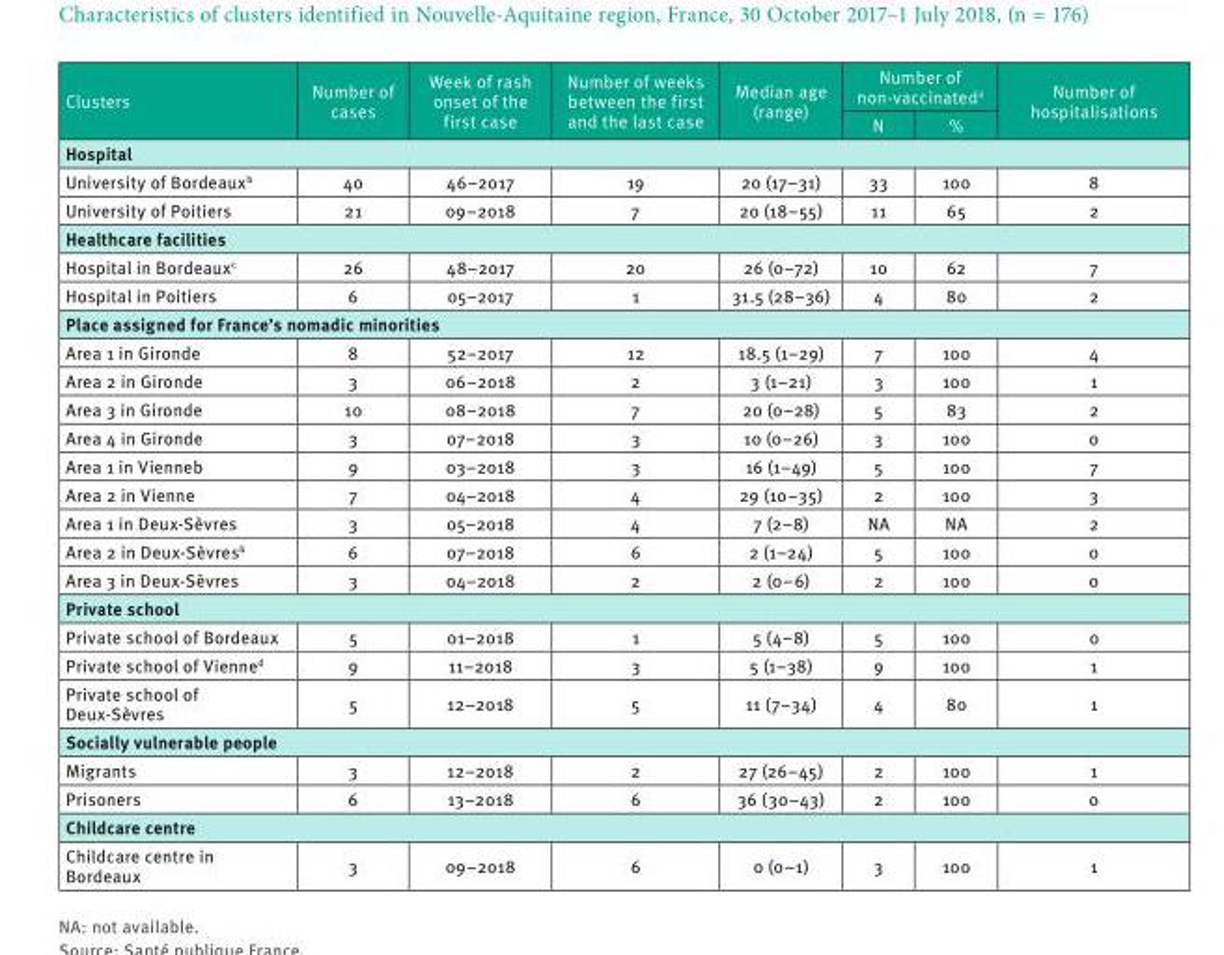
<table><thead><tr><td rowspan="2">Clusters</td><td rowspan="2">Number of cases</td><td rowspan="2">Week of rash onset of the first case</td><td rowspan="2">Number of weeks between the first and the last case</td><td rowspan="2">Median age (range)</td><td colspan="2">Number of non-vaccinated<sup>a</sup></td><td rowspan="2">Number of hospitalisations</td></tr><tr><td>N</td><td>%</td></tr></thead><tbody><tr><td colspan="8">Hospital</td></tr><tr><td>University of Bordeaux<sup>b</sup></td><td>40</td><td>46–2017</td><td>19</td><td>20 (17–31)</td><td>33</td><td>100</td><td>8</td></tr><tr><td>University of Poitiers</td><td>21</td><td>09–2018</td><td>7</td><td>20 (18–55)</td><td>11</td><td>65</td><td>2</td></tr><tr><td colspan="8">Healthcare facilities</td></tr><tr><td>Hospital in Bordeaux<sup>c</sup></td><td>26</td><td>48–2017</td><td>20</td><td>26 (0–72)</td><td>10</td><td>62</td><td>7</td></tr><tr><td>Hospital in Poitiers</td><td>6</td><td>05–2017</td><td>1</td><td>31.5 (28–36)</td><td>4</td><td>80</td><td>2</td></tr><tr><td colspan="8">Place assigned for France’s nomadic minorities</td></tr><tr><td>Area 1 in Gironde</td><td>8</td><td>52–2017</td><td>12</td><td>18.5 (1–29)</td><td>7</td><td>100</td><td>4</td></tr><tr><td>Area 2 in Gironde</td><td>3</td><td>06–2018</td><td>2</td><td>3 (1–21)</td><td>3</td><td>100</td><td>1</td></tr><tr><td>Area 3 in Gironde</td><td>10</td><td>08–2018</td><td>7</td><td>20 (0–28)</td><td>5</td><td>83</td><td>2</td></tr><tr><td>Area 4 in Gironde</td><td>3</td><td>07–2018</td><td>3</td><td>10 (0–26)</td><td>3</td><td>100</td><td>0</td></tr><tr><td>Area 1 in Vienne<sup>b</sup></td><td>9</td><td>03–2018</td><td>3</td><td>16 (1–49)</td><td>5</td><td>100</td><td>7</td></tr><tr><td>Area 2 in Vienne</td><td>7</td><td>04–2018</td><td>4</td><td>29 (10–35)</td><td>2</td><td>100</td><td>3</td></tr><tr><td>Area 1 in Deux-Sèvres</td><td>3</td><td>05–2018</td><td>4</td><td>7 (2–8)</td><td>NA</td><td>NA</td><td>2</td></tr><tr><td>Area 2 in Deux-Sèvres<sup>b</sup></td><td>6</td><td>07–2018</td><td>6</td><td>2 (1–24)</td><td>5</td><td>100</td><td>0</td></tr><tr><td>Area 3 in Deux-Sèvres</td><td>3</td><td>04–2018</td><td>2</td><td>2 (0–6)</td><td>2</td><td>100</td><td>0</td></tr><tr><td colspan="8">Private school</td></tr><tr><td>Private school of Bordeaux</td><td>5</td><td>01–2018</td><td>1</td><td>5 (4–8)</td><td>5</td><td>100</td><td>0</td></tr><tr><td>Private school of Vienne<sup>d</sup></td><td>9</td><td>11–2018</td><td>3</td><td>5 (1–38)</td><td>9</td><td>100</td><td>1</td></tr><tr><td>Private school of Deux-Sèvres</td><td>5</td><td>12–2018</td><td>5</td><td>11 (7–34)</td><td>4</td><td>80</td><td>1</td></tr><tr><td colspan="8">Socially vulnerable people</td></tr><tr><td>Migrants</td><td>3</td><td>12–2018</td><td>2</td><td>27 (26–45)</td><td>2</td><td>100</td><td>1</td></tr><tr><td>Prisoners</td><td>6</td><td>13–2018</td><td>6</td><td>36 (30–43)</td><td>2</td><td>100</td><td>0</td></tr><tr><td colspan="8">Childcare centre</td></tr><tr><td>Childcare centre in Bordeaux</td><td>3</td><td>09–2018</td><td>6</td><td>0 (0–1)</td><td>3</td><td>100</td><td>1</td></tr></tbody></table>